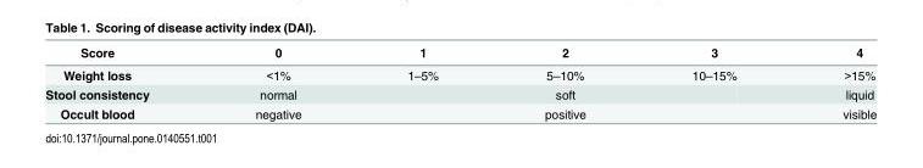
<table><thead><tr><td>Score</td><td>0</td><td>1</td><td>2</td><td>3</td><td>4</td></tr></thead><tbody><tr><td>Weight loss</td><td>&lt;1%</td><td>1–5%</td><td>5–10%</td><td>10–15%</td><td>&gt;15%</td></tr><tr><td>Stool consistency</td><td>normal</td><td></td><td>soft</td><td></td><td>liquid</td></tr><tr><td>Occult blood</td><td>negative</td><td></td><td>positive</td><td></td><td>visible</td></tr></tbody></table>